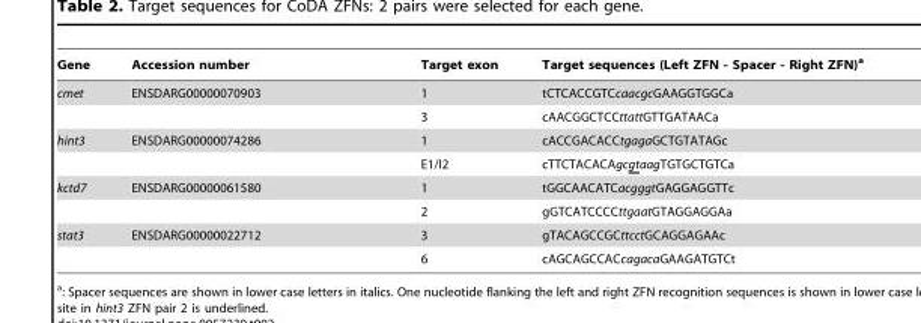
<table><thead><tr><td>Gene</td><td>Accession number</td><td>Target exon</td><td>Target sequences (Left ZFN - Spacer - Right ZFN)<sup>a</sup></td></tr></thead><tbody><tr><td rowspan="2">cmet</td><td>ENSDARG00000070903</td><td>1</td><td>tCTCACCGTCcaacgcGAAGGTGGCa</td></tr><tr><td></td><td>3</td><td>cAACGGCTCCttattGTTGATAACa</td></tr><tr><td rowspan="2">hint3</td><td>ENSDARG00000074286</td><td>1</td><td>cACCGACACCtgagaGCTGTATAGc</td></tr><tr><td></td><td>E1/I2</td><td>cTTCTACACAgcgtaagTGTGCTGTCa</td></tr><tr><td rowspan="2">kctd7</td><td>ENSDARG00000061580</td><td>1</td><td>tGGCAACATCacgggtGAGGAGGTTc</td></tr><tr><td></td><td>2</td><td>gGTCATCCCCttgaatGTAGGAGGAa</td></tr><tr><td rowspan="2">stat3</td><td>ENSDARG00000022712</td><td>3</td><td>gTACAGCCGCttcctGCAGGAGAAc</td></tr><tr><td></td><td>6</td><td>cAGCAGCCACcagacaGAAGATGTCt</td></tr></tbody></table>